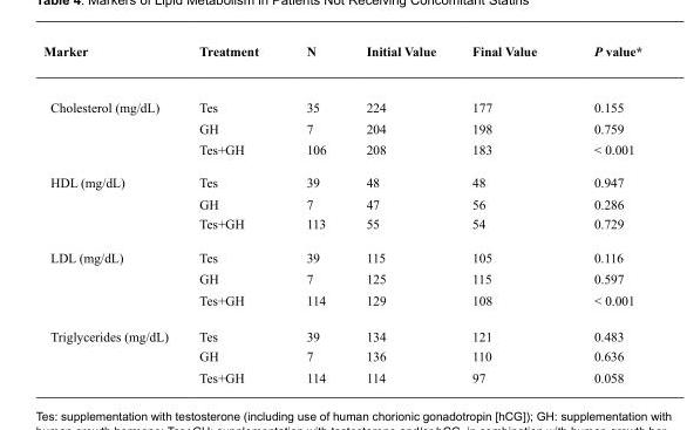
<table><thead><tr><td>Marker</td><td>Treatment</td><td>N</td><td>Initial Value</td><td>Final Value</td><td>P value*</td></tr></thead><tbody><tr><td rowspan="3">Cholesterol (mg/dL)</td><td>Tes</td><td>35</td><td>224</td><td>177</td><td>0.155</td></tr><tr><td>GH</td><td>7</td><td>204</td><td>198</td><td>0.759</td></tr><tr><td>Tes+GH</td><td>106</td><td>208</td><td>183</td><td>&lt; 0.001</td></tr><tr><td rowspan="3">HDL (mg/dL)</td><td>Tes</td><td>39</td><td>48</td><td>48</td><td>0.947</td></tr><tr><td>GH</td><td>7</td><td>47</td><td>56</td><td>0.286</td></tr><tr><td>Tes+GH</td><td>113</td><td>55</td><td>54</td><td>0.729</td></tr><tr><td rowspan="3">LDL (mg/dL)</td><td>Tes</td><td>39</td><td>115</td><td>105</td><td>0.116</td></tr><tr><td>GH</td><td>7</td><td>125</td><td>115</td><td>0.597</td></tr><tr><td>Tes+GH</td><td>114</td><td>129</td><td>108</td><td>&lt; 0.001</td></tr><tr><td rowspan="3">Triglycerides (mg/dL)</td><td>Tes</td><td>39</td><td>134</td><td>121</td><td>0.483</td></tr><tr><td>GH</td><td>7</td><td>136</td><td>110</td><td>0.636</td></tr><tr><td>Tes+GH</td><td>114</td><td>114</td><td>97</td><td>0.058</td></tr></tbody></table>